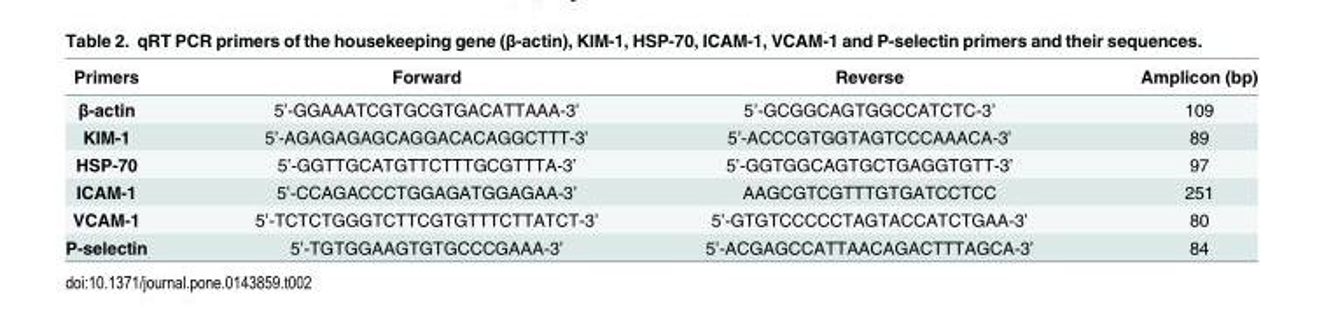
<table><thead><tr><td>Primers</td><td>Forward</td><td>Reverse</td><td>Amplicon (bp)</td></tr></thead><tbody><tr><td>β-actin</td><td>5’-GGAAATCGTGCGTGACATTAAA-3’</td><td>5’-GCGGCAGTGGCCATCTC-3’</td><td>109</td></tr><tr><td>KIM-1</td><td>5’-AGAGAGAGCAGGACACAGGCTTT-3’</td><td>5’-ACCCGTGGTAGTCCCAAACA-3’</td><td>89</td></tr><tr><td>HSP-70</td><td>5’-GGTTGCATGTTCTTTGCGTTTA-3’</td><td>5’-GGTGGCAGTGCTGAGGTGTT-3’</td><td>97</td></tr><tr><td>ICAM-1</td><td>5’-CCAGACCCTGGAGATGGAGAA-3’</td><td>AAGCGTCGTTTGTGATCCTCC</td><td>251</td></tr><tr><td>VCAM-1</td><td>5’-TCTCTGGGTCTTCGTGTTTCTTATCT-3’</td><td>5’-GTGTCCCCCTAGTACCATCTGAA-3’</td><td>80</td></tr><tr><td>P-selectin</td><td>5’-TGTGGAAGTGTGCCCGAAA-3’</td><td>5’-ACGAGCCATTAACAGACTTTAGCA-3’</td><td>84</td></tr></tbody></table>